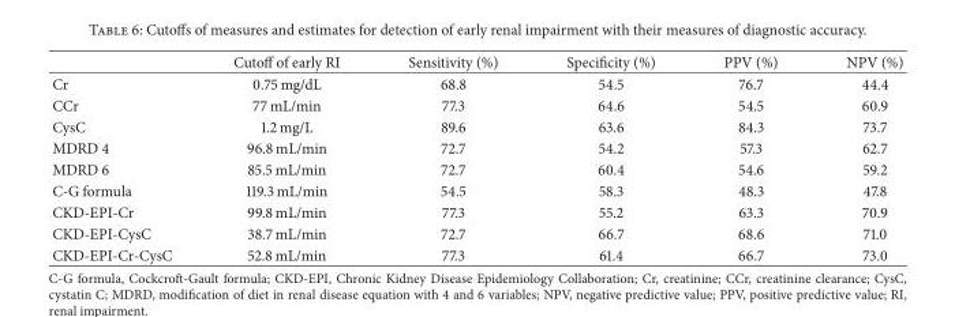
<table><thead><tr><td></td><td>Cutoff of early RI</td><td>Sensitivity (%)</td><td>Specificity (%)</td><td>PPV (%)</td><td>NPV (%)</td></tr></thead><tbody><tr><td>Cr</td><td>0.75 mg/dL</td><td>68.8</td><td>54.5</td><td>76.7</td><td>44.4</td></tr><tr><td>CCr</td><td>77 mL/min</td><td>77.3</td><td>64.6</td><td>54.5</td><td>60.9</td></tr><tr><td>CysC</td><td>1.2 mg/L</td><td>89.6</td><td>63.6</td><td>84.3</td><td>73.7</td></tr><tr><td>MDRD 4</td><td>96.8 mL/min</td><td>72.7</td><td>54.2</td><td>57.3</td><td>62.7</td></tr><tr><td>MDRD 6</td><td>85.5 mL/min</td><td>72.7</td><td>60.4</td><td>54.6</td><td>59.2</td></tr><tr><td>C-G formula</td><td>119.3 mL/min</td><td>54.5</td><td>58.3</td><td>48.3</td><td>47.8</td></tr><tr><td>CKD-EPI-Cr</td><td>99.8 mL/min</td><td>77.3</td><td>55.2</td><td>63.3</td><td>70.9</td></tr><tr><td>CKD-EPI-CysC</td><td>38.7 mL/min</td><td>72.7</td><td>66.7</td><td>68.6</td><td>71.0</td></tr><tr><td>CKD-EPI-Cr-CysC</td><td>52.8 mL/min</td><td>77.3</td><td>61.4</td><td>66.7</td><td>73.0</td></tr></tbody></table>